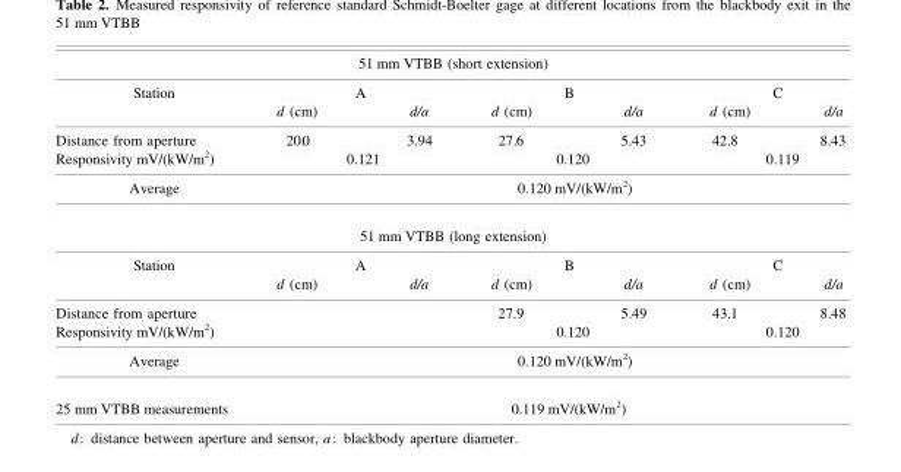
<table><thead><tr><td colspan="10">51 mm VTBB (short extension)</td></tr><tr><td rowspan="2">Station</td><td colspan="3">A</td><td colspan="3">B</td><td colspan="3">C</td></tr><tr><td>d (cm)</td><td></td><td>d/a</td><td>d (cm)</td><td></td><td>d/a</td><td>d (cm)</td><td></td><td>d/a</td></tr></thead><tbody><tr><td>Distance from aperture</td><td>20.0</td><td></td><td>3.94</td><td>27.6</td><td></td><td>5.43</td><td>42.8</td><td></td><td>8.43</td></tr><tr><td>Responsivity mV/(kW/m<sup>2</sup>)</td><td></td><td>0.121</td><td></td><td></td><td>0.120</td><td></td><td></td><td>0.119</td><td></td></tr><tr><td>Average</td><td colspan="9">0.120 mV/(kW/m<sup>2</sup>)</td></tr><tr><td colspan="10">51 mm VTBB (long extension)</td></tr><tr><td rowspan="2">Station</td><td colspan="3">A</td><td colspan="3">B</td><td colspan="3">C</td></tr><tr><td>d (cm)</td><td></td><td>d/a</td><td>d (cm)</td><td></td><td>d/a</td><td>d (cm)</td><td></td><td>d/a</td></tr><tr><td>Distance from aperture</td><td></td><td></td><td></td><td>27.9</td><td></td><td>5.49</td><td>43.1</td><td></td><td>8.48</td></tr><tr><td>Responsivity mV/(kW/m<sup>2</sup>)</td><td></td><td></td><td></td><td></td><td>0.120</td><td></td><td></td><td>0.120</td><td></td></tr><tr><td>Average</td><td colspan="9">0.120 mV/(kW/m<sup>2</sup>)</td></tr><tr><td>25 mm VTBB measurements</td><td colspan="9">0.119 mV/(kW/m<sup>2</sup>)</td></tr></tbody></table>